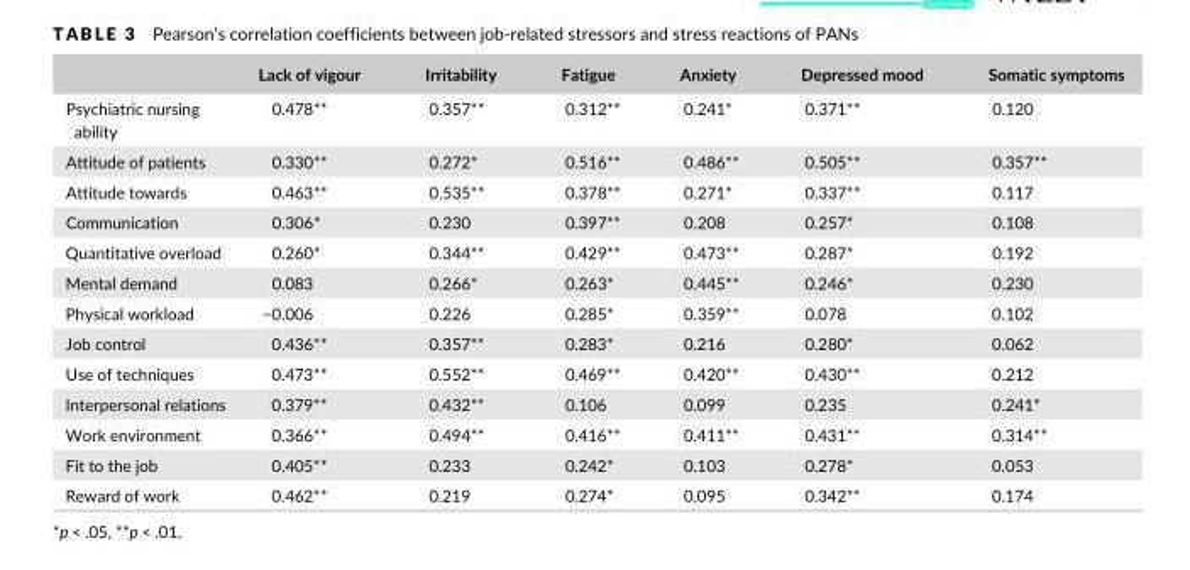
<table><thead><tr><td></td><td>Lack of vigour</td><td>Irritability</td><td>Fatigue</td><td>Anxiety</td><td>Depressed mood</td><td>Somatic symptoms</td></tr></thead><tbody><tr><td>Psychiatric nursing ability</td><td>0.478**</td><td>0.357**</td><td>0.312**</td><td>0.241*</td><td>0.371**</td><td>0.120</td></tr><tr><td>Attitude of patients</td><td>0.330**</td><td>0.272*</td><td>0.516**</td><td>0.486**</td><td>0.505**</td><td>0.357**</td></tr><tr><td>Attitude towards</td><td>0.463**</td><td>0.535**</td><td>0.378**</td><td>0.271*</td><td>0.337**</td><td>0.117</td></tr><tr><td>Communication</td><td>0.306*</td><td>0.230</td><td>0.397**</td><td>0.208</td><td>0.257*</td><td>0.108</td></tr><tr><td>Quantitative overload</td><td>0.260*</td><td>0.344**</td><td>0.429**</td><td>0.473**</td><td>0.287*</td><td>0.192</td></tr><tr><td>Mental demand</td><td>0.083</td><td>0.266*</td><td>0.263*</td><td>0.445**</td><td>0.246*</td><td>0.230</td></tr><tr><td>Physical workload</td><td>−0.006</td><td>0.226</td><td>0.285*</td><td>0.359**</td><td>0.078</td><td>0.102</td></tr><tr><td>Job control</td><td>0.436**</td><td>0.357**</td><td>0.283*</td><td>0.216</td><td>0.280*</td><td>0.062</td></tr><tr><td>Use of techniques</td><td>0.473**</td><td>0.552**</td><td>0.469**</td><td>0.420**</td><td>0.430**</td><td>0.212</td></tr><tr><td>Interpersonal relations</td><td>0.379**</td><td>0.432**</td><td>0.106</td><td>0.099</td><td>0.235</td><td>0.241*</td></tr><tr><td>Work environment</td><td>0.366**</td><td>0.494**</td><td>0.416**</td><td>0.411**</td><td>0.431**</td><td>0.314**</td></tr><tr><td>Fit to the job</td><td>0.405**</td><td>0.233</td><td>0.242*</td><td>0.103</td><td>0.278*</td><td>0.053</td></tr><tr><td>Reward of work</td><td>0.462**</td><td>0.219</td><td>0.274*</td><td>0.095</td><td>0.342**</td><td>0.174</td></tr></tbody></table>